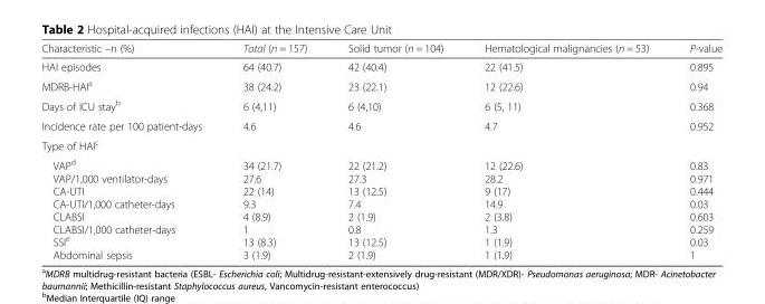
<table><thead><tr><td>Characteristic –n (%)</td><td>Total (n = 157)</td><td>Solid tumor (n = 104)</td><td>Hematological malignancies (n = 53)</td><td>P-value</td></tr></thead><tbody><tr><td>HAI episodes</td><td>64 (40.7)</td><td>42 (40.4)</td><td>22 (41.5)</td><td>0.895</td></tr><tr><td>MDRB-HAI<sup>a</sup></td><td>38 (24.2)</td><td>23 (22.1)</td><td>12 (22.6)</td><td>0.94</td></tr><tr><td>Days of ICU stay<sup>b</sup></td><td>6 (4,11)</td><td>6 (4,10)</td><td>6 (5, 11)</td><td>0.368</td></tr><tr><td>Incidence rate per 100 patient-days</td><td>4.6</td><td>4.6</td><td>4.7</td><td>0.952</td></tr><tr><td colspan="5">Type of HAI<sup>c</sup></td></tr><tr><td>VAP<sup>d</sup> VAP/1,000 ventilator-days CA-UTI CA-UTI/1,000 catheter-days CLABSI CLABSI/1,000 catheter-days SSI<sup>e</sup> Abdominal sepsis</td><td>34 (21.7) 27.6 22 (14) 9.3 4 (8.9) 1 13 (8.3) 3 (1.9)</td><td>22 (21.2) 27.3 13 (12.5) 7.4 2 (1.9) 0.8 13 (12.5) 2 (1.9)</td><td>12 (22.6) 28.2 9 (17) 14.9 2 (3.8) 1.3 1 (1.9) 1 (1.9)</td><td>0.83 0.971 0.444 0.03 0.603 0.259 0.03 1</td></tr></tbody></table>